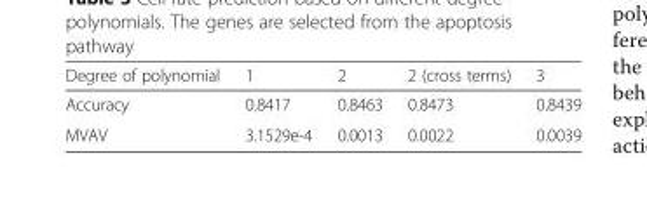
<table><thead><tr><td>Degree of polynomial</td><td>1</td><td>2</td><td>2 (cross terms)</td><td>3</td></tr></thead><tbody><tr><td>Accuracy</td><td>0.8417</td><td>0.8463</td><td>0.8473</td><td>0.8439</td></tr><tr><td>MVAV</td><td>3.1529e-4</td><td>0.0013</td><td>0.0022</td><td>0.0039</td></tr></tbody></table>